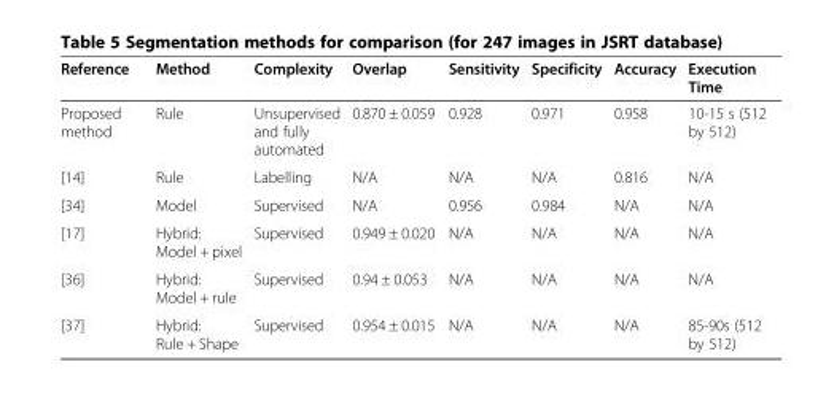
<table><thead><tr><td>Reference</td><td>Method</td><td>Complexity</td><td>Overlap</td><td>Sensitivity</td><td>Specificity</td><td>Accuracy</td><td>Execution Time</td></tr></thead><tbody><tr><td>Proposed method</td><td>Rule</td><td>Unsupervised and fully automated</td><td>0.870 ± 0.059</td><td>0.928</td><td>0.971</td><td>0.958</td><td>10-15 s (512 by 512)</td></tr><tr><td>[14]</td><td>Rule</td><td>Labelling</td><td>N/A</td><td>N/A</td><td>N/A</td><td>0.816</td><td>N/A</td></tr><tr><td>[34]</td><td>Model</td><td>Supervised</td><td>N/A</td><td>0.956</td><td>0.984</td><td>N/A</td><td>N/A</td></tr><tr><td>[17]</td><td>Hybrid: Model + pixel</td><td>Supervised</td><td>0.949 ± 0.020</td><td>N/A</td><td>N/A</td><td>N/A</td><td>N/A</td></tr><tr><td>[36]</td><td>Hybrid: Model + rule</td><td>Supervised</td><td>0.94 ± 0.053</td><td>N/A</td><td>N/A</td><td>N/A</td><td>N/A</td></tr><tr><td>[37]</td><td>Hybrid: Rule + Shape</td><td>Supervised</td><td>0.954 ± 0.015</td><td>N/A</td><td>N/A</td><td>N/A</td><td>85-90s (512 by 512)</td></tr></tbody></table>